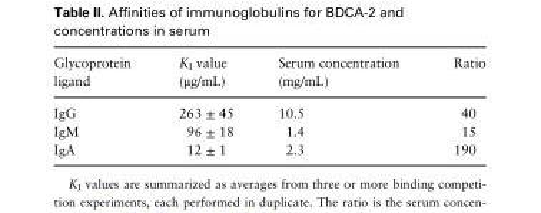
<table><thead><tr><td>Glycoprotein ligand</td><td>K<sub>I</sub> value (μg/mL)</td><td>Serum concentration (mg/mL)</td><td>Ratio</td></tr></thead><tbody><tr><td>IgG</td><td>263 ± 45</td><td>10.5</td><td>40</td></tr><tr><td>IgM</td><td>96 ± 18</td><td>1.4</td><td>15</td></tr><tr><td>IgA</td><td>12 ± 1</td><td>2.3</td><td>190</td></tr></tbody></table>